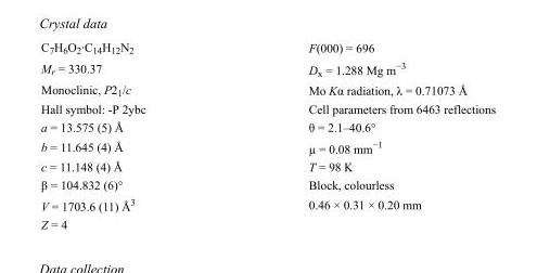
<table><tbody><tr><td>C<sub>7</sub>H<sub>6</sub>O<sub>2</sub>·C<sub>14</sub>H<sub>12</sub>N<sub>2</sub></td><td>F(000) = 696</td></tr><tr><td>M<sub>r</sub> = 330.37</td><td>D<sub>x</sub> = 1.288 Mg m<sup>−3</sup></td></tr><tr><td>Monoclinic, P2<sub>1</sub>/c</td><td>Mo Kα radiation, λ = 0.71073 Å</td></tr><tr><td>Hall symbol: -P 2ybc</td><td>Cell parameters from 6463 reflections</td></tr><tr><td>a = 13.575 (5) Å</td><td>θ = 2.1–40.6°</td></tr><tr><td>b = 11.645 (4) Å</td><td>µ = 0.08 mm<sup>−1</sup></td></tr><tr><td>c = 11.148 (4) Å</td><td>T = 98 K</td></tr><tr><td>β = 104.832 (6)°</td><td>Block, colourless</td></tr><tr><td>V = 1703.6 (11) Å<sup>3</sup></td><td>0.46 × 0.31 × 0.20 mm</td></tr><tr><td>Z = 4</td><td></td></tr></tbody></table>